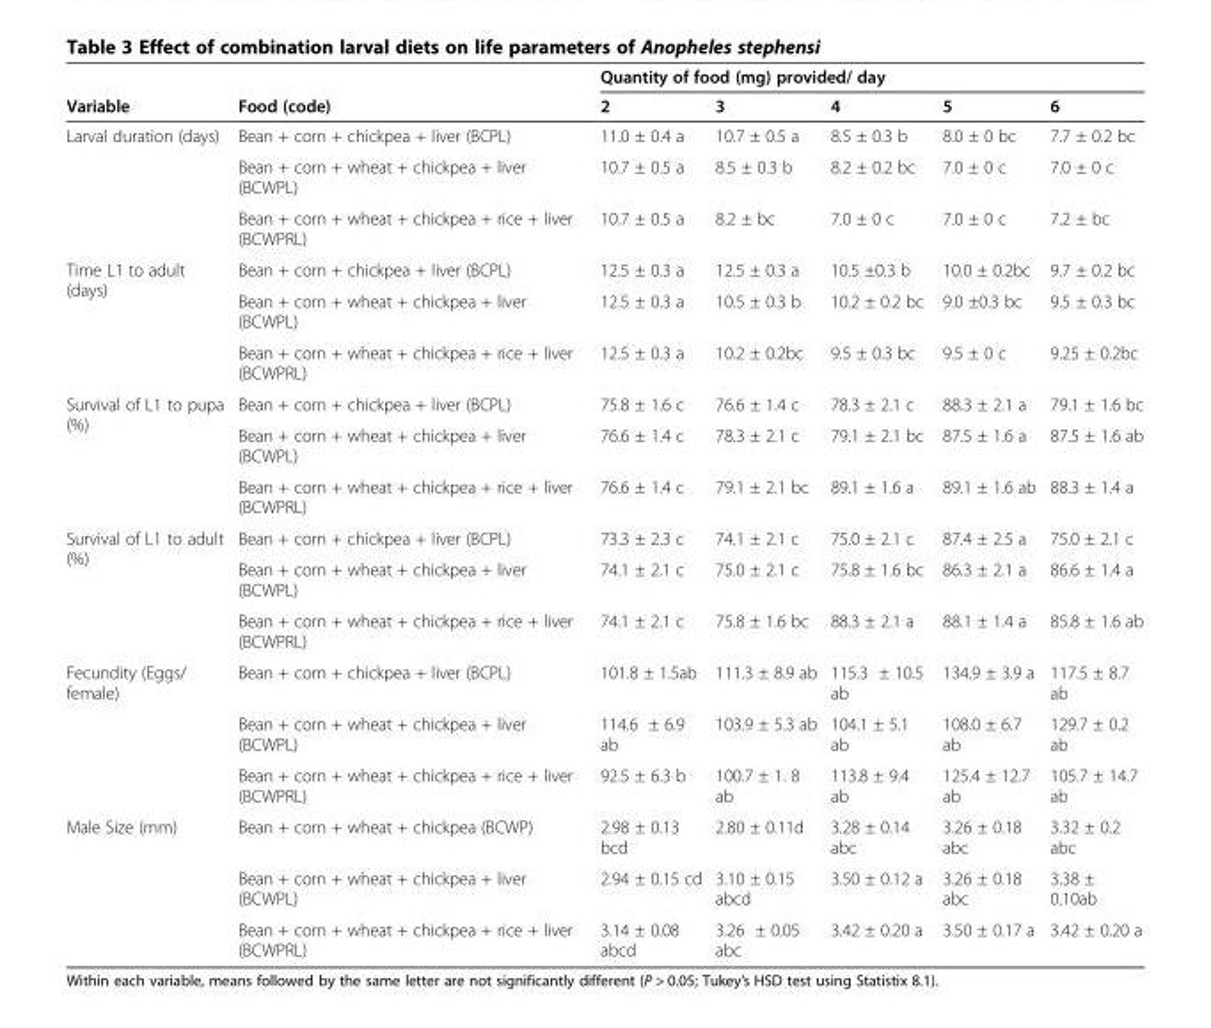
<table><thead><tr><td rowspan="2">Variable</td><td rowspan="2">Food (code)</td><td colspan="5">Quantity of food (mg) provided/ day</td></tr><tr><td>2</td><td>3</td><td>4</td><td>5</td><td>6</td></tr></thead><tbody><tr><td rowspan="3">Larval duration (days)</td><td>Bean + corn + chickpea + liver (BCPL)</td><td>11.0 ± 0.4 a</td><td>10.7 ± 0.5 a</td><td>8.5 ± 0.3 b</td><td>8.0 ± 0 bc</td><td>7.7 ± 0.2 bc</td></tr><tr><td>Bean + corn + wheat + chickpea + liver (BCWPL)</td><td>10.7 ± 0.5 a</td><td>8.5 ± 0.3 b</td><td>8.2 ± 0.2 bc</td><td>7.0 ± 0 c</td><td>7.0 ± 0 c</td></tr><tr><td>Bean + corn + wheat + chickpea + rice + liver (BCWPRL)</td><td>10.7 ± 0.5 a</td><td>8.2 ± bc</td><td>7.0 ± 0 c</td><td>7.0 ± 0 c</td><td>7.2 ± bc</td></tr><tr><td rowspan="3">Time L1 to adult (days)</td><td>Bean + corn + chickpea + liver (BCPL)</td><td>12.5 ± 0.3 a</td><td>12.5 ± 0.3 a</td><td>10.5 ±0.3 b</td><td>10.0 ± 0.2bc</td><td>9.7 ± 0.2 bc</td></tr><tr><td>Bean + corn + wheat + chickpea + liver (BCWPL)</td><td>12.5 ± 0.3 a</td><td>10.5 ± 0.3 b</td><td>10.2 ± 0.2 bc</td><td>9.0 ±0.3 bc</td><td>9.5 ± 0.3 bc</td></tr><tr><td>Bean + corn + wheat + chickpea + rice + liver (BCWPRL)</td><td>12.5 ± 0.3 a</td><td>10.2 ± 0.2bc</td><td>9.5 ± 0.3 bc</td><td>9.5 ± 0 c</td><td>9.25 ± 0.2bc</td></tr><tr><td rowspan="3">Survival of L1 to pupa (%)</td><td>Bean + corn + chickpea + liver (BCPL)</td><td>75.8 ± 1.6 c</td><td>76.6 ± 1.4 c</td><td>78.3 ± 2.1 c</td><td>88.3 ± 2.1 a</td><td>79.1 ± 1.6 bc</td></tr><tr><td>Bean + corn + wheat + chickpea + liver (BCWPL)</td><td>76.6 ± 1.4 c</td><td>78.3 ± 2.1 c</td><td>79.1 ± 2.1 bc</td><td>87.5 ± 1.6 a</td><td>87.5 ± 1.6 ab</td></tr><tr><td>Bean + corn + wheat + chickpea + rice + liver (BCWPRL)</td><td>76.6 ± 1.4 c</td><td>79.1 ± 2.1 bc</td><td>89.1 ± 1.6 a</td><td>89.1 ± 1.6 ab</td><td>88.3 ± 1.4 a</td></tr><tr><td rowspan="3">Survival of L1 to adult (%)</td><td>Bean + corn + chickpea + liver (BCPL)</td><td>73.3 ± 2.3 c</td><td>74.1 ± 2.1 c</td><td>75.0 ± 2.1 c</td><td>87.4 ± 2.5 a</td><td>75.0 ± 2.1 c</td></tr><tr><td>Bean + corn + wheat + chickpea + liver (BCWPL)</td><td>74.1 ± 2.1 c</td><td>75.0 ± 2.1 c</td><td>75.8 ± 1.6 bc</td><td>86.3 ± 2.1 a</td><td>86.6 ± 1.4 a</td></tr><tr><td>Bean + corn + wheat + chickpea + rice + liver (BCWPRL)</td><td>74.1 ± 2.1 c</td><td>75.8 ± 1.6 bc</td><td>88.3 ± 2.1 a</td><td>88.1 ± 1.4 a</td><td>85.8 ± 1.6 ab</td></tr><tr><td rowspan="3">Fecundity (Eggs/ female)</td><td>Bean + corn + chickpea + liver (BCPL)</td><td>101.8 ± 1.5ab</td><td>111.3 ± 8.9 ab</td><td>115.3 ± 10.5 ab</td><td>134.9 ± 3.9 a</td><td>117.5 ± 8.7 ab</td></tr><tr><td>Bean + corn + wheat + chickpea + liver (BCWPL)</td><td>114.6 ± 6.9 ab</td><td>103.9 ± 5.3 ab</td><td>104.1 ± 5.1 ab</td><td>108.0 ± 6.7 ab</td><td>129.7 ± 0.2 ab</td></tr><tr><td>Bean + corn + wheat + chickpea + rice + liver (BCWPRL)</td><td>92.5 ± 6.3 b</td><td>100.7 ± 1. 8 ab</td><td>113.8 ± 9.4 ab</td><td>125.4 ± 12.7 ab</td><td>105.7 ± 14.7 ab</td></tr><tr><td rowspan="3">Male Size (mm)</td><td>Bean + corn + wheat + chickpea (BCWP)</td><td>2.98 ± 0.13 bcd</td><td>2.80 ± 0.11d</td><td>3.28 ± 0.14 abc</td><td>3.26 ± 0.18 abc</td><td>3.32 ± 0.2 abc</td></tr><tr><td>Bean + corn + wheat + chickpea + liver (BCWPL)</td><td>2.94 ± 0.15 cd</td><td>3.10 ± 0.15 abcd</td><td>3.50 ± 0.12 a</td><td>3.26 ± 0.18 abc</td><td>3.38 ± 0.10ab</td></tr><tr><td>Bean + corn + wheat + chickpea + rice + liver (BCWPRL)</td><td>3.14 ± 0.08 abcd</td><td>3.26 ± 0.05 abc</td><td>3.42 ± 0.20 a</td><td>3.50 ± 0.17 a</td><td>3.42 ± 0.20 a</td></tr></tbody></table>